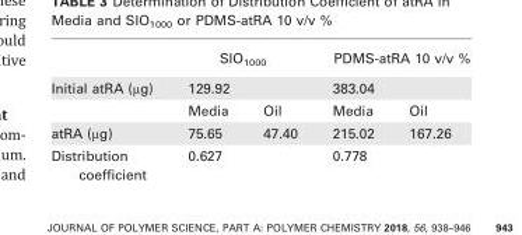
<table><thead><tr><td rowspan="3">Initial atRA (µg)</td><td rowspan="2" colspan="2">SIO<sub>1000</sub> 129.92</td><td rowspan="2" colspan="2">PDMS-atRA 10 v/v % 383.04</td></tr><tr></tr><tr><td>Media</td><td>Oil</td><td>Media</td><td>Oil</td></tr></thead><tbody><tr><td>atRA (µg)</td><td>75.65</td><td>47.40</td><td>215.02</td><td>167.26</td></tr><tr><td>Distribution coefficient</td><td colspan="2">0.627</td><td colspan="2">0.778</td></tr></tbody></table>